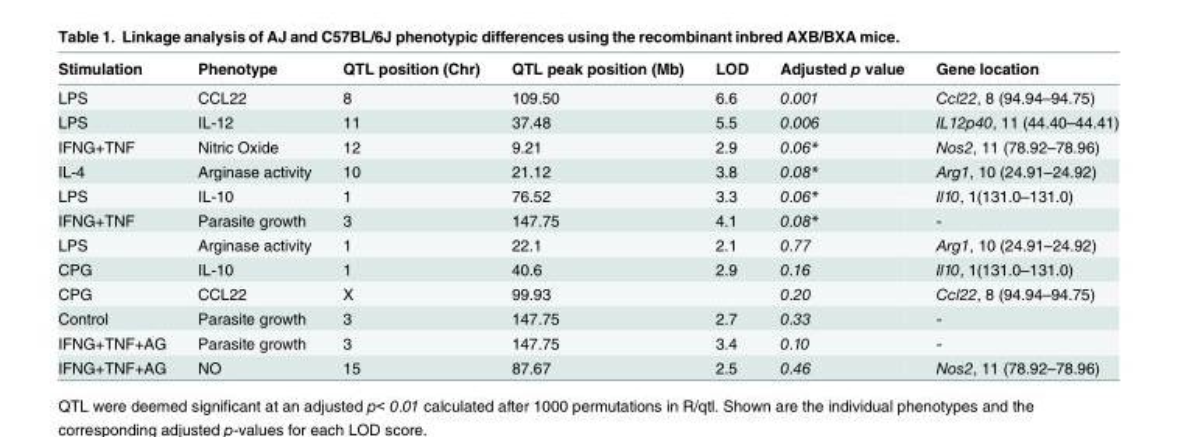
<table><thead><tr><td>Stimulation</td><td>Phenotype</td><td>QTL position (Chr)</td><td>QTL peak position (Mb)</td><td>LOD</td><td>Adjusted p value</td><td>Gene location</td></tr></thead><tbody><tr><td>LPS</td><td>CCL22</td><td>8</td><td>109.50</td><td>6.6</td><td>0.001</td><td>Ccl22, 8 (94.94–94.75)</td></tr><tr><td>LPS</td><td>IL-12</td><td>11</td><td>37.48</td><td>5.5</td><td>0.006</td><td>IL12p40, 11 (44.40–44.41)</td></tr><tr><td>IFNG+TNF</td><td>Nitric Oxide</td><td>12</td><td>9.21</td><td>2.9</td><td>0.06*</td><td>Nos2, 11 (78.92–78.96)</td></tr><tr><td>IL-4</td><td>Arginase activity</td><td>10</td><td>21.12</td><td>3.8</td><td>0.08*</td><td>Arg1, 10 (24.91–24.92)</td></tr><tr><td>LPS</td><td>IL-10</td><td>1</td><td>76.52</td><td>3.3</td><td>0.06*</td><td>Il10, 1(131.0–131.0)</td></tr><tr><td>IFNG+TNF</td><td>Parasite growth</td><td>3</td><td>147.75</td><td>4.1</td><td>0.08*</td><td>-</td></tr><tr><td>LPS</td><td>Arginase activity</td><td>1</td><td>22.1</td><td>2.1</td><td>0.77</td><td>Arg1, 10 (24.91–24.92)</td></tr><tr><td>CPG</td><td>IL-10</td><td>1</td><td>40.6</td><td>2.9</td><td>0.16</td><td>Il10, 1(131.0–131.0)</td></tr><tr><td>CPG</td><td>CCL22</td><td>X</td><td>99.93</td><td></td><td>0.20</td><td>Ccl22, 8 (94.94–94.75)</td></tr><tr><td>Control</td><td>Parasite growth</td><td>3</td><td>147.75</td><td>2.7</td><td>0.33</td><td>-</td></tr><tr><td>IFNG+TNF+AG</td><td>Parasite growth</td><td>3</td><td>147.75</td><td>3.4</td><td>0.10</td><td>-</td></tr><tr><td>IFNG+TNF+AG</td><td>NO</td><td>15</td><td>87.67</td><td>2.5</td><td>0.46</td><td>Nos2, 11 (78.92–78.96)</td></tr></tbody></table>